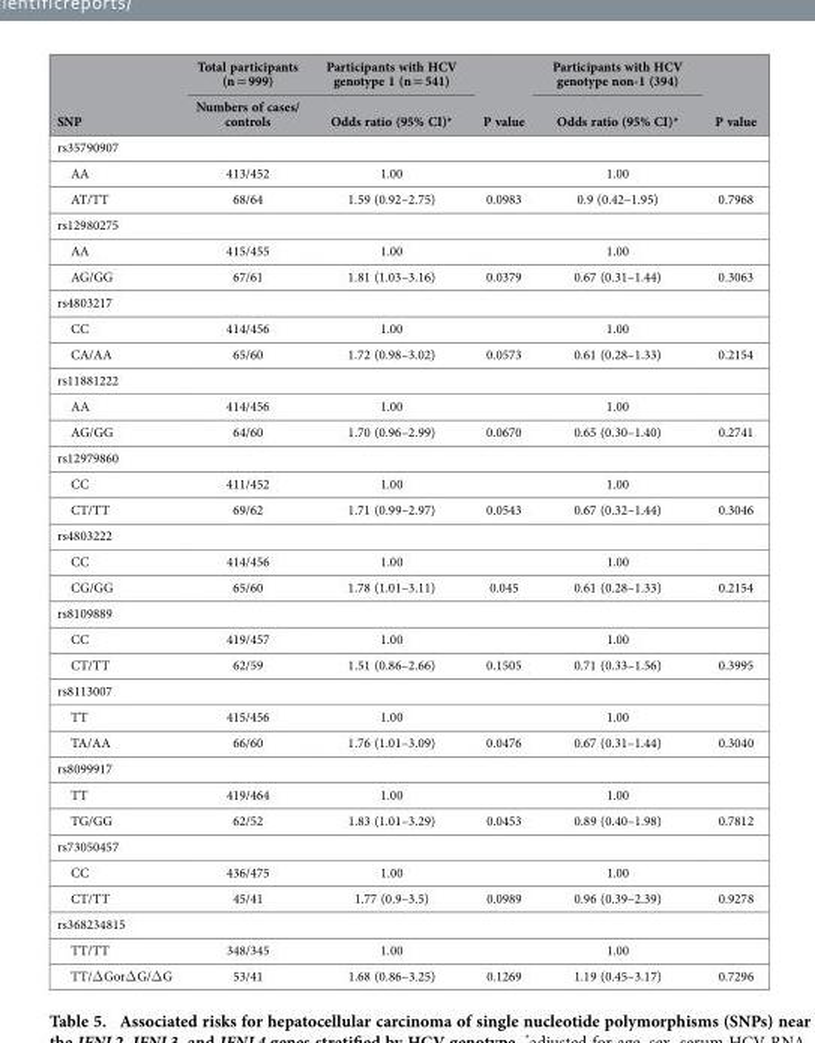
<table><thead><tr><td rowspan="2">SNP</td><td rowspan="2">Total participants (n = 999) Numbers of cases/ controls</td><td rowspan="2">Participants with HCV genotype 1 (n = 541) Odds ratio (95% CI)*</td><td rowspan="2">P value</td><td rowspan="2">Participants with HCV genotype non-1 (394) Odds ratio (95% CI)*</td><td rowspan="2">P value</td></tr><tr></tr></thead><tbody><tr><td colspan="6">rs35790907</td></tr><tr><td>AA</td><td>413/452</td><td>1.00</td><td></td><td>1.00</td><td></td></tr><tr><td>AT/TT</td><td>68/64</td><td>1.59 (0.92–2.75)</td><td>0.0983</td><td>0.9 (0.42–1.95)</td><td>0.7968</td></tr><tr><td colspan="6">rs12980275</td></tr><tr><td>AA</td><td>415/455</td><td>1.00</td><td></td><td>1.00</td><td></td></tr><tr><td>AG/GG</td><td>67/61</td><td>1.81 (1.03–3.16)</td><td>0.0379</td><td>0.67 (0.31–1.44)</td><td>0.3063</td></tr><tr><td colspan="6">rs4803217</td></tr><tr><td>CC</td><td>414/456</td><td>1.00</td><td></td><td>1.00</td><td></td></tr><tr><td>CA/AA</td><td>65/60</td><td>1.72 (0.98–3.02)</td><td>0.0573</td><td>0.61 (0.28–1.33)</td><td>0.2154</td></tr><tr><td colspan="6">rs11881222</td></tr><tr><td>AA</td><td>414/456</td><td>1.00</td><td></td><td>1.00</td><td></td></tr><tr><td>AG/GG</td><td>64/60</td><td>1.70 (0.96–2.99)</td><td>0.0670</td><td>0.65 (0.30–1.40)</td><td>0.2741</td></tr><tr><td colspan="6">rs12979860</td></tr><tr><td>CC</td><td>411/452</td><td>1.00</td><td></td><td>1.00</td><td></td></tr><tr><td>CT/TT</td><td>69/62</td><td>1.71 (0.99–2.97)</td><td>0.0543</td><td>0.67 (0.32–1.44)</td><td>0.3046</td></tr><tr><td colspan="6">rs4803222</td></tr><tr><td>CC</td><td>414/456</td><td>1.00</td><td></td><td>1.00</td><td></td></tr><tr><td>CG/GG</td><td>65/60</td><td>1.78 (1.01–3.11)</td><td>0.045</td><td>0.61 (0.28–1.33)</td><td>0.2154</td></tr><tr><td colspan="6">rs8109889</td></tr><tr><td>CC</td><td>419/457</td><td>1.00</td><td></td><td>1.00</td><td></td></tr><tr><td>CT/TT</td><td>62/59</td><td>1.51 (0.86–2.66)</td><td>0.1505</td><td>0.71 (0.33–1.56)</td><td>0.3995</td></tr><tr><td colspan="6">rs8113007</td></tr><tr><td>TT</td><td>415/456</td><td>1.00</td><td></td><td>1.00</td><td></td></tr><tr><td>TA/AA</td><td>66/60</td><td>1.76 (1.01–3.09)</td><td>0.0476</td><td>0.67 (0.31–1.44)</td><td>0.3040</td></tr><tr><td colspan="6">rs8099917</td></tr><tr><td>TT</td><td>419/464</td><td>1.00</td><td></td><td>1.00</td><td></td></tr><tr><td>TG/GG</td><td>62/52</td><td>1.83 (1.01–3.29)</td><td>0.0453</td><td>0.89 (0.40–1.98)</td><td>0.7812</td></tr><tr><td colspan="6">rs73050457</td></tr><tr><td>CC</td><td>436/475</td><td>1.00</td><td></td><td>1.00</td><td></td></tr><tr><td>CT/TT</td><td>45/41</td><td>1.77 (0.9–3.5)</td><td>0.0989</td><td>0.96 (0.39–2.39)</td><td>0.9278</td></tr><tr><td colspan="6">rs368234815</td></tr><tr><td>TT/TT</td><td>348/345</td><td>1.00</td><td></td><td>1.00</td><td></td></tr><tr><td>TT/Δ GorΔ G/Δ G</td><td>53/41</td><td>1.68 (0.86–3.25)</td><td>0.1269</td><td>1.19 (0.45–3.17)</td><td>0.7296</td></tr></tbody></table>